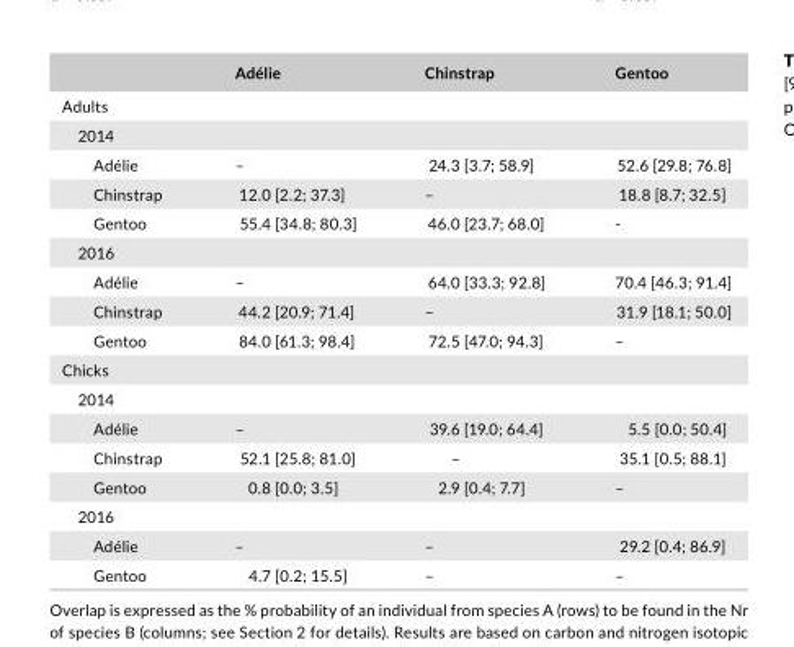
<table><thead><tr><td></td><td>Adélie</td><td>Chinstrap</td><td>Gentoo</td></tr></thead><tbody><tr><td colspan="4">Adults</td></tr><tr><td colspan="4">2014</td></tr><tr><td>Adélie</td><td>–</td><td>24.3 [3.7; 58.9]</td><td>52.6 [29.8; 76.8]</td></tr><tr><td>Chinstrap</td><td>12.0 [2.2; 37.3]</td><td>–</td><td>18.8 [8.7; 32.5]</td></tr><tr><td>Gentoo</td><td>55.4 [34.8; 80.3]</td><td>46.0 [23.7; 68.0]</td><td>-</td></tr><tr><td colspan="4">2016</td></tr><tr><td>Adélie</td><td>–</td><td>64.0 [33.3; 92.8]</td><td>70.4 [46.3; 91.4]</td></tr><tr><td>Chinstrap</td><td>44.2 [20.9; 71.4]</td><td>–</td><td>31.9 [18.1; 50.0]</td></tr><tr><td>Gentoo</td><td>84.0 [61.3; 98.4]</td><td>72.5 [47.0; 94.3]</td><td>–</td></tr><tr><td colspan="4">Chicks</td></tr><tr><td colspan="4">2014</td></tr><tr><td>Adélie</td><td>–</td><td>39.6 [19.0; 64.4]</td><td>5.5 [0.0; 50.4]</td></tr><tr><td>Chinstrap</td><td>52.1 [25.8; 81.0]</td><td>–</td><td>35.1 [0.5; 88.1]</td></tr><tr><td>Gentoo</td><td>0.8 [0.0; 3.5]</td><td>2.9 [0.4; 7.7]</td><td>–</td></tr><tr><td colspan="4">2016</td></tr><tr><td>Adélie</td><td>–</td><td>–</td><td>29.2 [0.4; 86.9]</td></tr><tr><td>Gentoo</td><td>4.7 [0.2; 15.5]</td><td>–</td><td>–</td></tr></tbody></table>